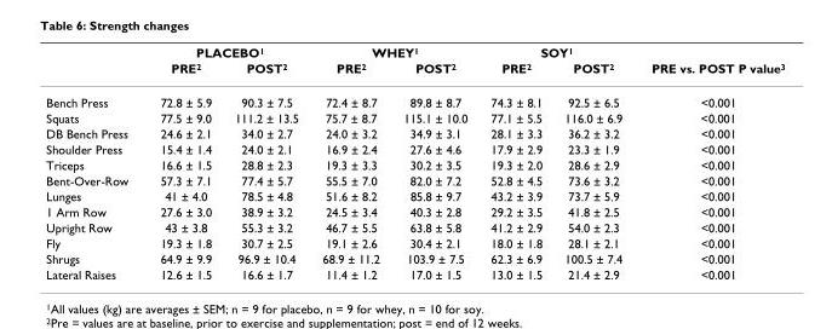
<table><thead><tr><td rowspan="2"></td><td colspan="2">PLACEBO<sup>1</sup></td><td colspan="2">WHEY<sup>1</sup></td><td colspan="2">SOY<sup>1</sup></td><td rowspan="2">PRE vs. POST P value<sup>3</sup></td></tr><tr><td>PRE<sup>2</sup></td><td>POST<sup>2</sup></td><td>PRE<sup>2</sup></td><td>POST<sup>2</sup></td><td>PRE<sup>2</sup></td><td>POST<sup>2</sup></td></tr></thead><tbody><tr><td>Bench Press</td><td>72.8 ± 5.9</td><td>90.3 ± 7.5</td><td>72.4 ± 8.7</td><td>89.8 ± 8.7</td><td>74.3 ± 8.1</td><td>92.5 ± 6.5</td><td>&lt;0.001</td></tr><tr><td>Squats</td><td>77.5 ± 9.0</td><td>111.2 ± 13.5</td><td>75.7 ± 8.7</td><td>115.1 ± 10.0</td><td>77.1 ± 5.5</td><td>116.0 ± 6.9</td><td>&lt;0.001</td></tr><tr><td>DB Bench Press</td><td>24.6 ± 2.1</td><td>34.0 ± 2.7</td><td>24.0 ± 3.2</td><td>34.9 ± 3.1</td><td>28.1 ± 3.3</td><td>36.2 ± 3.2</td><td>&lt;0.001</td></tr><tr><td>Shoulder Press</td><td>15.4 ± 1.4</td><td>24.0 ± 2.1</td><td>16.9 ± 2.4</td><td>27.6 ± 4.6</td><td>17.9 ± 2.9</td><td>23.3 ± 1.9</td><td>&lt;0.001</td></tr><tr><td>Triceps</td><td>16.6 ± 1.5</td><td>28.8 ± 2.3</td><td>19.3 ± 3.3</td><td>30.2 ± 3.5</td><td>19.3 ± 2.0</td><td>28.6 ± 2.9</td><td>&lt;0.001</td></tr><tr><td>Bent-Over-Row</td><td>57.3 ± 7.1</td><td>77.4 ± 5.7</td><td>55.5 ± 7.0</td><td>82.0 ± 7.2</td><td>52.8 ± 4.5</td><td>73.6 ± 3.2</td><td>&lt;0.001</td></tr><tr><td>Lunges</td><td>41 ± 4.0</td><td>78.5 ± 4.8</td><td>51.6 ± 8.2</td><td>85.8 ± 9.7</td><td>43.2 ± 3.9</td><td>73.7 ± 5.9</td><td>&lt;0.001</td></tr><tr><td>1 Arm Row</td><td>27.6 ± 3.0</td><td>38.9 ± 3.2</td><td>24.5 ± 3.4</td><td>40.3 ± 2.8</td><td>29.2 ± 3.5</td><td>41.8 ± 2.5</td><td>&lt;0.001</td></tr><tr><td>Upright Row</td><td>43 ± 3.8</td><td>55.3 ± 3.2</td><td>46.7 ± 5.5</td><td>63.8 ± 5.8</td><td>41.2 ± 2.9</td><td>54.0 ± 2.3</td><td>&lt;0.001</td></tr><tr><td>Fly</td><td>19.3 ± 1.8</td><td>30.7 ± 2.5</td><td>19.1 ± 2.6</td><td>30.4 ± 2.1</td><td>18.0 ± 1.8</td><td>28.1 ± 2.1</td><td>&lt;0.001</td></tr><tr><td>Shrugs</td><td>64.9 ± 9.9</td><td>96.9 ± 10.4</td><td>68.9 ± 11.2</td><td>103.9 ± 7.5</td><td>62.3 ± 6.9</td><td>100.5 ± 7.4</td><td>&lt;0.001</td></tr><tr><td>Lateral Raises</td><td>12.6 ± 1.5</td><td>16.6 ± 1.7</td><td>11.4 ± 1.2</td><td>17.0 ± 1.5</td><td>13.0 ± 1.5</td><td>21.4 ± 2.9</td><td>&lt;0.001</td></tr></tbody></table>